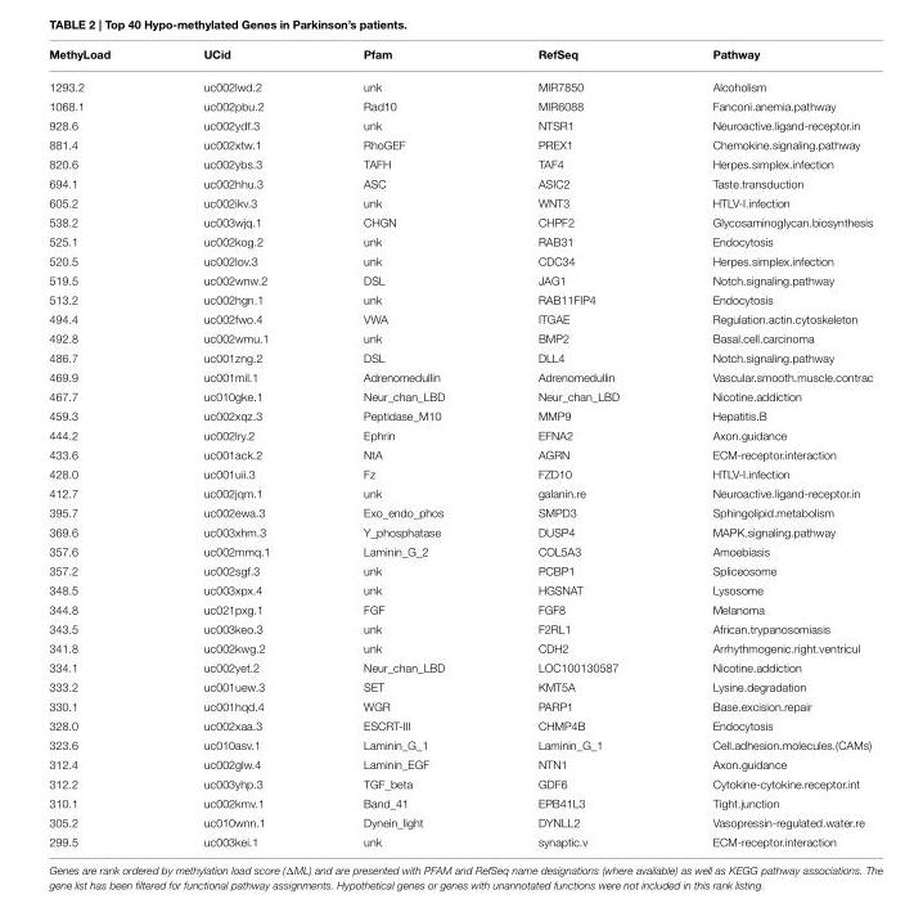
<table><thead><tr><td>MethyLoad</td><td>UCid</td><td>Pfam</td><td>RefSeq</td><td>Pathway</td></tr></thead><tbody><tr><td>1293.2</td><td>uc002lwd.2</td><td>unk</td><td>MIR7850</td><td>Alcoholism</td></tr><tr><td>1068.1</td><td>uc002pbu.2</td><td>Rad10</td><td>MIR6088</td><td>Fanconi.anemia.pathway</td></tr><tr><td>928.6</td><td>uc002ydf.3</td><td>unk</td><td>NTSR1</td><td>Neuroactive.ligand-receptor.in</td></tr><tr><td>881.4</td><td>uc002xtw.1</td><td>RhoGEF</td><td>PREX1</td><td>Chemokine.signaling.pathway</td></tr><tr><td>820.6</td><td>uc002ybs.3</td><td>TAFH</td><td>TAF4</td><td>Herpes.simplex.infection</td></tr><tr><td>694.1</td><td>uc002hhu.3</td><td>ASC</td><td>ASIC2</td><td>Taste.transduction</td></tr><tr><td>605.2</td><td>uc002ikv.3</td><td>unk</td><td>WNT3</td><td>HTLV-I.infection</td></tr><tr><td>538.2</td><td>uc003wjq.1</td><td>CHGN</td><td>CHPF2</td><td>Glycosaminoglycan.biosynthesis</td></tr><tr><td>525.1</td><td>uc002kog.2</td><td>unk</td><td>RAB31</td><td>Endocytosis</td></tr><tr><td>520.5</td><td>uc002lov.3</td><td>unk</td><td>CDC34</td><td>Herpes.simplex.infection</td></tr><tr><td>519.5</td><td>uc002wnw.2</td><td>DSL</td><td>JAG1</td><td>Notch.signaling.pathway</td></tr><tr><td>513.2</td><td>uc002hgn.1</td><td>unk</td><td>RAB11FIP4</td><td>Endocytosis</td></tr><tr><td>494.4</td><td>uc002fwo.4</td><td>VWA</td><td>ITGAE</td><td>Regulation.actin.cytoskeleton</td></tr><tr><td>492.8</td><td>uc002wmu.1</td><td>unk</td><td>BMP2</td><td>Basal.cell.carcinoma</td></tr><tr><td>486.7</td><td>uc001zng.2</td><td>DSL</td><td>DLL4</td><td>Notch.signaling.pathway</td></tr><tr><td>469.9</td><td>uc001mil.1</td><td>Adrenomedullin</td><td>Adrenomedullin</td><td>Vascular.smooth.muscle.contrac</td></tr><tr><td>467.7</td><td>uc010gke.1</td><td>Neur_chan_LBD</td><td>Neur_chan_LBD</td><td>Nicotine.addiction</td></tr><tr><td>459.3</td><td>uc002xqz.3</td><td>Peptidase_M10</td><td>MMP9</td><td>Hepatitis.B</td></tr><tr><td>444.2</td><td>uc002lry.2</td><td>Ephrin</td><td>EFNA2</td><td>Axon.guidance</td></tr><tr><td>433.6</td><td>uc001ack.2</td><td>NtA</td><td>AGRN</td><td>ECM-receptor.interaction</td></tr><tr><td>428.0</td><td>uc001uii.3</td><td>Fz</td><td>FZD10</td><td>HTLV-I.infection</td></tr><tr><td>412.7</td><td>uc002jqm.1</td><td>unk</td><td>galanin.re</td><td>Neuroactive.ligand-receptor.in</td></tr><tr><td>395.7</td><td>uc002ewa.3</td><td>Exo_endo_phos</td><td>SMPD3</td><td>Sphingolipid.metabolism</td></tr><tr><td>369.6</td><td>uc003xhm.3</td><td>Y_phosphatase</td><td>DUSP4</td><td>MAPK.signaling.pathway</td></tr><tr><td>357.6</td><td>uc002mmq.1</td><td>Laminin_G_2</td><td>COL5A3</td><td>Amoebiasis</td></tr><tr><td>357.2</td><td>uc002sgf.3</td><td>unk</td><td>PCBP1</td><td>Spliceosome</td></tr><tr><td>348.5</td><td>uc003xpx.4</td><td>unk</td><td>HGSNAT</td><td>Lysosome</td></tr><tr><td>344.8</td><td>uc021pxg.1</td><td>FGF</td><td>FGF8</td><td>Melanoma</td></tr><tr><td>343.5</td><td>uc003keo.3</td><td>unk</td><td>F2RL1</td><td>African.trypanosomiasis</td></tr><tr><td>341.8</td><td>uc002kwg.2</td><td>unk</td><td>CDH2</td><td>Arrhythmogenic.right.ventricul</td></tr><tr><td>334.1</td><td>uc002yet.2</td><td>Neur_chan_LBD</td><td>LOC100130587</td><td>Nicotine.addiction</td></tr><tr><td>333.2</td><td>uc001uew.3</td><td>SET</td><td>KMT5A</td><td>Lysine.degradation</td></tr><tr><td>330.1</td><td>uc001hqd.4</td><td>WGR</td><td>PARP1</td><td>Base.excision.repair</td></tr><tr><td>328.0</td><td>uc002xaa.3</td><td>ESCRT-III</td><td>CHMP4B</td><td>Endocytosis</td></tr><tr><td>323.6</td><td>uc010asv.1</td><td>Laminin_G_1</td><td>Laminin_G_1</td><td>Cell.adhesion.molecules.(CAMs)</td></tr><tr><td>312.4</td><td>uc002glw.4</td><td>Laminin_EGF</td><td>NTN1</td><td>Axon.guidance</td></tr><tr><td>312.2</td><td>uc003yhp.3</td><td>TGF_beta</td><td>GDF6</td><td>Cytokine-cytokine.receptor.int</td></tr><tr><td>310.1</td><td>uc002kmv.1</td><td>Band_41</td><td>EPB41L3</td><td>Tight.junction</td></tr><tr><td>305.2</td><td>uc010wnn.1</td><td>Dynein_light</td><td>DYNLL2</td><td>Vasopressin-regulated.water.re</td></tr><tr><td>299.5</td><td>uc003kei.1</td><td>unk</td><td>synaptic.v</td><td>ECM-receptor.interaction</td></tr></tbody></table>